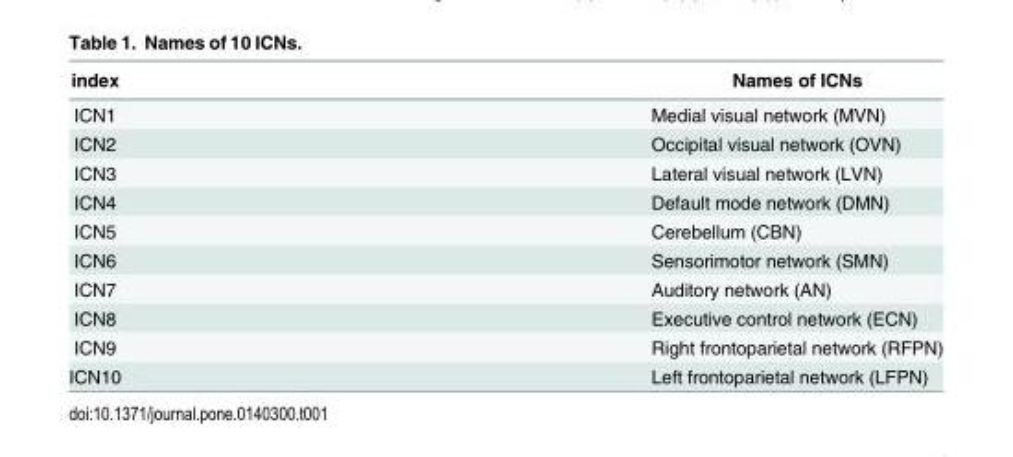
<table><thead><tr><td>index</td><td>Names of ICNs</td></tr></thead><tbody><tr><td>ICN1</td><td>Medial visual network (MVN)</td></tr><tr><td>ICN2</td><td>Occipital visual network (OVN)</td></tr><tr><td>ICN3</td><td>Lateral visual network (LVN)</td></tr><tr><td>ICN4</td><td>Default mode network (DMN)</td></tr><tr><td>ICN5</td><td>Cerebellum (CBN)</td></tr><tr><td>ICN6</td><td>Sensorimotor network (SMN)</td></tr><tr><td>ICN7</td><td>Auditory network (AN)</td></tr><tr><td>ICN8</td><td>Executive control network (ECN)</td></tr><tr><td>ICN9</td><td>Right frontoparietal network (RFPN)</td></tr><tr><td>ICN10</td><td>Left frontoparietal network (LFPN)</td></tr></tbody></table>